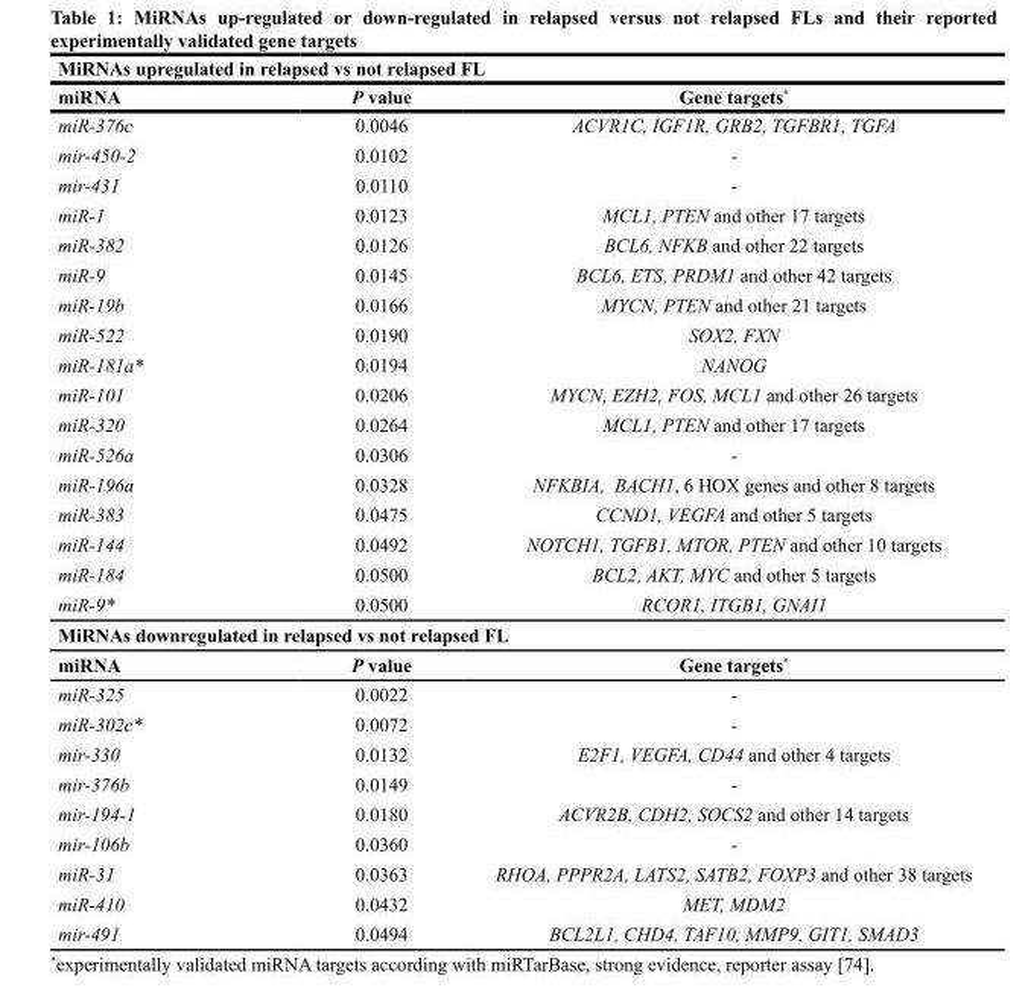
<table><thead><tr><td colspan="3">MiRNAs upregulated in relapsed vs not relapsed FL</td></tr><tr><td>miRNA</td><td>P value</td><td>Gene targets*</td></tr></thead><tbody><tr><td>miR-376c</td><td>0.0046</td><td>ACVR1C, IGF1R, GRB2, TGFBR1, TGFA</td></tr><tr><td>mir-450-2</td><td>0.0102</td><td>-</td></tr><tr><td>mir-431</td><td>0.0110</td><td>-</td></tr><tr><td>miR-1</td><td>0.0123</td><td>MCL1, PTEN and other 17 targets</td></tr><tr><td>miR-382</td><td>0.0126</td><td>BCL6, NFKB and other 22 targets</td></tr><tr><td>miR-9</td><td>0.0145</td><td>BCL6, ETS, PRDM1 and other 42 targets</td></tr><tr><td>miR-19b</td><td>0.0166</td><td>MYCN, PTEN and other 21 targets</td></tr><tr><td>miR-522</td><td>0.0190</td><td>SOX2, FXN</td></tr><tr><td>miR-181a*</td><td>0.0194</td><td>NANOG</td></tr><tr><td>miR-101</td><td>0.0206</td><td>MYCN, EZH2, FOS, MCL1 and other 26 targets</td></tr><tr><td>miR-320</td><td>0.0264</td><td>MCL1, PTEN and other 17 targets</td></tr><tr><td>miR-526a</td><td>0.0306</td><td>-</td></tr><tr><td>miR-196a</td><td>0.0328</td><td>NFKBIA, BACH1, 6 HOX genes and other 8 targets</td></tr><tr><td>miR-383</td><td>0.0475</td><td>CCND1, VEGFA and other 5 targets</td></tr><tr><td>miR-144</td><td>0.0492</td><td>NOTCH1, TGFB1, MTOR, PTEN and other 10 targets</td></tr><tr><td>miR-184</td><td>0.0500</td><td>BCL2, AKT, MYC and other 5 targets</td></tr><tr><td>miR-9*</td><td>0.0500</td><td>RCOR1, ITGB1, GNAI1</td></tr><tr><td colspan="3">MiRNAs downregulated in relapsed vs not relapsed FL</td></tr><tr><td>miRNA</td><td>P value</td><td>Gene targets*</td></tr><tr><td>miR-325</td><td>0.0022</td><td>-</td></tr><tr><td>miR-302c*</td><td>0.0072</td><td>-</td></tr><tr><td>mir-330</td><td>0.0132</td><td>E2F1, VEGFA, CD44 and other 4 targets</td></tr><tr><td>mir-376b</td><td>0.0149</td><td>-</td></tr><tr><td>mir-194-1</td><td>0.0180</td><td>ACVR2B, CDH2, SOCS2 and other 14 targets</td></tr><tr><td>mir-106b</td><td>0.0360</td><td>-</td></tr><tr><td>miR-31</td><td>0.0363</td><td>RHOA, PPPR2A, LATS2, SATB2, FOXP3 and other 38 targets</td></tr><tr><td>miR-410</td><td>0.0432</td><td>MET, MDM2</td></tr><tr><td>mir-491</td><td>0.0494</td><td>BCL2L1, CHD4, TAF10, MMP9, GIT1, SMAD3</td></tr></tbody></table>